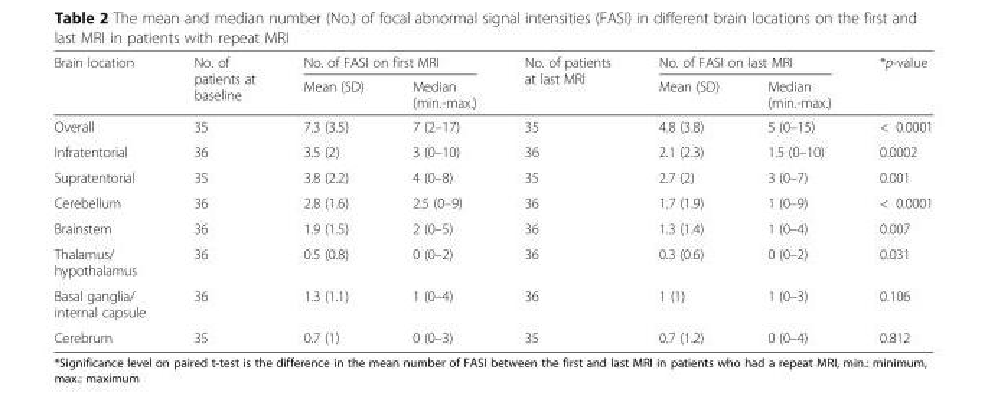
<table><thead><tr><td rowspan="2">Brain location</td><td rowspan="2">No. of patients at baseline</td><td colspan="2">No. of FASI on first MRI</td><td rowspan="2">No. of patients at last MRI</td><td colspan="2">No. of FASI on last MRI</td><td rowspan="2">*p-value</td></tr><tr><td>Mean (SD)</td><td>Median (min.-max.)</td><td>Mean (SD)</td><td>Median (min.-max.)</td></tr></thead><tbody><tr><td>Overall</td><td>35</td><td>7.3 (3.5)</td><td>7 (2–17)</td><td>35</td><td>4.8 (3.8)</td><td>5 (0–15)</td><td>&lt; 0.0001</td></tr><tr><td>Infratentorial</td><td>36</td><td>3.5 (2)</td><td>3 (0–10)</td><td>36</td><td>2.1 (2.3)</td><td>1.5 (0–10)</td><td>0.0002</td></tr><tr><td>Supratentorial</td><td>35</td><td>3.8 (2.2)</td><td>4 (0–8)</td><td>35</td><td>2.7 (2)</td><td>3 (0–7)</td><td>0.001</td></tr><tr><td>Cerebellum</td><td>36</td><td>2.8 (1.6)</td><td>2.5 (0–9)</td><td>36</td><td>1.7 (1.9)</td><td>1 (0–9)</td><td>&lt; 0.0001</td></tr><tr><td>Brainstem</td><td>36</td><td>1.9 (1.5)</td><td>2 (0–5)</td><td>36</td><td>1.3 (1.4)</td><td>1 (0–4)</td><td>0.007</td></tr><tr><td>Thalamus/ hypothalamus</td><td>36</td><td>0.5 (0.8)</td><td>0 (0–2)</td><td>36</td><td>0.3 (0.6)</td><td>0 (0–2)</td><td>0.031</td></tr><tr><td>Basal ganglia/ internal capsule</td><td>36</td><td>1.3 (1.1)</td><td>1 (0–4)</td><td>36</td><td>1 (1)</td><td>1 (0–3)</td><td>0.106</td></tr><tr><td>Cerebrum</td><td>35</td><td>0.7 (1)</td><td>0 (0–3)</td><td>35</td><td>0.7 (1.2)</td><td>0 (0–4)</td><td>0.812</td></tr></tbody></table>